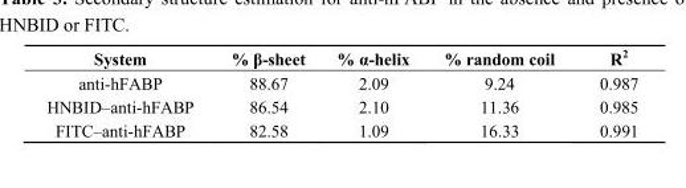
<table><thead><tr><td>System</td><td>% β-sheet</td><td>% α-helix</td><td>% random coil</td><td>R<sup>2</sup></td></tr></thead><tbody><tr><td>anti-hFABP</td><td>88.67</td><td>2.09</td><td>9.24</td><td>0.987</td></tr><tr><td>HNBID–anti-hFABP</td><td>86.54</td><td>2.10</td><td>11.36</td><td>0.985</td></tr><tr><td>FITC–anti-hFABP</td><td>82.58</td><td>1.09</td><td>16.33</td><td>0.991</td></tr></tbody></table>